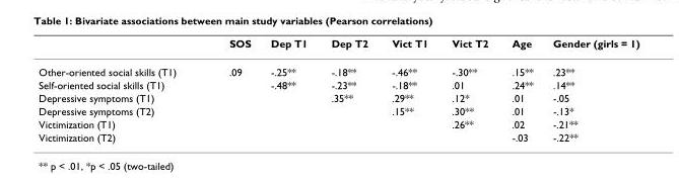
<table><thead><tr><td></td><td>SOS</td><td>Dep T1</td><td>Dep T2</td><td>Vict T1</td><td>Vict T2</td><td>Age</td><td>Gender (girls = 1)</td></tr></thead><tbody><tr><td>Other-oriented social skills (T1)</td><td>.09</td><td>-.25**</td><td>-.18**</td><td>-.46**</td><td>-.30**</td><td>.15**</td><td>.23**</td></tr><tr><td>Self-oriented social skills (T1)</td><td></td><td>-.48**</td><td>-.23**</td><td>-.18**</td><td>.01</td><td>.24**</td><td>.14**</td></tr><tr><td>Depressive symptoms (T1)</td><td></td><td></td><td>.35**</td><td>.29**</td><td>.12*</td><td>.01</td><td>-.05</td></tr><tr><td>Depressive symptoms (T2)</td><td></td><td></td><td></td><td>.15**</td><td>.30**</td><td>.01</td><td>-.13*</td></tr><tr><td>Victimization (T1)</td><td></td><td></td><td></td><td></td><td>.26**</td><td>.02</td><td>-.21**</td></tr><tr><td>Victimization (T2)</td><td></td><td></td><td></td><td></td><td></td><td>-.03</td><td>-.22**</td></tr></tbody></table>